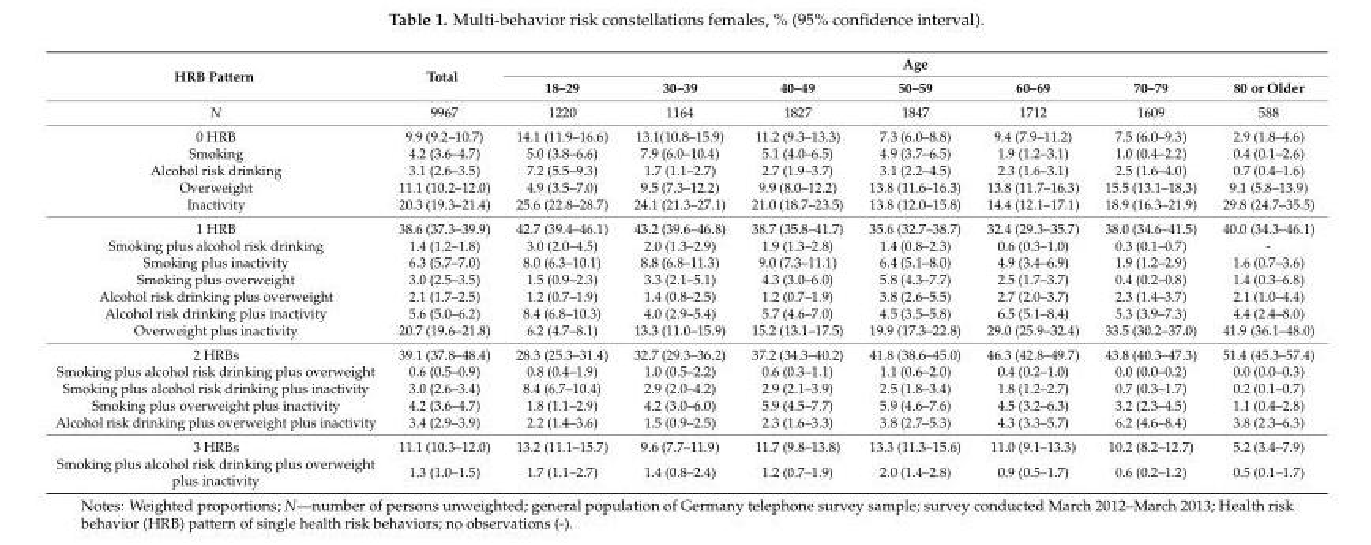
<table><thead><tr><td rowspan="2">HRB Pattern</td><td rowspan="2">Total</td><td colspan="7">Age</td></tr><tr><td>18–29</td><td>30–39</td><td>40–49</td><td>50–59</td><td>60–69</td><td>70–79</td><td>80 or Older</td></tr></thead><tbody><tr><td>N</td><td>9967</td><td>1220</td><td>1164</td><td>1827</td><td>1847</td><td>1712</td><td>1609</td><td>588</td></tr><tr><td>0 HRB</td><td>9.9 (9.2–10.7)</td><td>14.1 (11.9–16.6)</td><td>13.1(10.8–15.9)</td><td>11.2 (9.3–13.3)</td><td>7.3 (6.0–8.8)</td><td>9.4 (7.9–11.2)</td><td>7.5 (6.0–9.3)</td><td>2.9 (1.8–4.6)</td></tr><tr><td>Smoking</td><td>4.2 (3.6–4.7)</td><td>5.0 (3.8–6.6)</td><td>7.9 (6.0–10.4)</td><td>5.1 (4.0–6.5)</td><td>4.9 (3.7–6.5)</td><td>1.9 (1.2–3.1)</td><td>1.0 (0.4–2.2)</td><td>0.4 (0.1–2.6)</td></tr><tr><td>Alcohol risk drinking</td><td>3.1 (2.6–3.5)</td><td>7.2 (5.5–9.3)</td><td>1.7 (1.1–2.7)</td><td>2.7 (1.9–3.7)</td><td>3.1 (2.2–4.5)</td><td>2.3 (1.6–3.1)</td><td>2.5 (1.6–4.0)</td><td>0.7 (0.4–1.6)</td></tr><tr><td>Overweight</td><td>11.1 (10.2–12.0)</td><td>4.9 (3.5–7.0)</td><td>9.5 (7.3–12.2)</td><td>9.9 (8.0–12.2)</td><td>13.8 (11.6–16.3)</td><td>13.8 (11.7–16.3)</td><td>15.5 (13.1–18.3)</td><td>9.1 (5.8–13.9)</td></tr><tr><td>Inactivity</td><td>20.3 (19.3–21.4)</td><td>25.6 (22.8–28.7)</td><td>24.1 (21.3–27.1)</td><td>21.0 (18.7–23.5)</td><td>13.8 (12.0–15.8)</td><td>14.4 (12.1–17.1)</td><td>18.9 (16.3–21.9)</td><td>29.8 (24.7–35.5)</td></tr><tr><td>1 HRB</td><td>38.6 (37.3–39.9)</td><td>42.7 (39.4–46.1)</td><td>43.2 (39.6–46.8)</td><td>38.7 (35.8–41.7)</td><td>35.6 (32.7–38.7)</td><td>32.4 (29.3–35.7)</td><td>38.0 (34.6–41.5)</td><td>40.0 (34.3–46.1)</td></tr><tr><td>Smoking plus alcohol risk drinking</td><td>1.4 (1.2–1.8)</td><td>3.0 (2.0–4.5)</td><td>2.0 (1.3–2.9)</td><td>1.9 (1.3–2.8)</td><td>1.4 (0.8–2.3)</td><td>0.6 (0.3–1.0)</td><td>0.3 (0.1–0.7)</td><td>-</td></tr><tr><td>Smoking plus inactivity</td><td>6.3 (5.7–7.0)</td><td>8.0 (6.3–10.1)</td><td>8.8 (6.8–11.3)</td><td>9.0 (7.3–11.1)</td><td>6.4 (5.1–8.0)</td><td>4.9 (3.4–6.9)</td><td>1.9 (1.2–2.9)</td><td>1.6 (0.7–3.6)</td></tr><tr><td>Smoking plus overweight</td><td>3.0 (2.5–3.5)</td><td>1.5 (0.9–2.3)</td><td>3.3 (2.1–5.1)</td><td>4.3 (3.0–6.0)</td><td>5.8 (4.3–7.7)</td><td>2.5 (1.7–3.7)</td><td>0.4 (0.2–0.8)</td><td>1.4 (0.3–6.8)</td></tr><tr><td>Alcohol risk drinking plus overweight</td><td>2.1 (1.7–2.5)</td><td>1.2 (0.7–1.9)</td><td>1.4 (0.8–2.5)</td><td>1.2 (0.7–1.9)</td><td>3.8 (2.6–5.5)</td><td>2.7 (2.0–3.7)</td><td>2.3 (1.4–3.7)</td><td>2.1 (1.0–4.4)</td></tr><tr><td>Alcohol risk drinking plus inactivity</td><td>5.6 (5.0–6.2)</td><td>8.4 (6.8–10.3)</td><td>4.0 (2.9–5.4)</td><td>5.7 (4.6–7.0)</td><td>4.5 (3.5–5.8)</td><td>6.5 (5.1–8.4)</td><td>5.3 (3.9–7.3)</td><td>4.4 (2.4–8.0)</td></tr><tr><td>Overweight plus inactivity</td><td>20.7 (19.6–21.8)</td><td>6.2 (4.7–8.1)</td><td>13.3 (11.0–15.9)</td><td>15.2 (13.1–17.5)</td><td>19.9 (17.3–22.8)</td><td>29.0 (25.9–32.4)</td><td>33.5 (30.2–37.0)</td><td>41.9 (36.1–48.0)</td></tr><tr><td>2 HRBs</td><td>39.1 (37.8–48.4)</td><td>28.3 (25.3–31.4)</td><td>32.7 (29.3–36.2)</td><td>37.2 (34.3–40.2)</td><td>41.8 (38.6–45.0)</td><td>46.3 (42.8–49.7)</td><td>43.8 (40.3–47.3)</td><td>51.4 (45.3–57.4)</td></tr><tr><td>Smoking plus alcohol risk drinking plus overweight</td><td>0.6 (0.5–0.9)</td><td>0.8 (0.4–1.9)</td><td>1.0 (0.5–2.2)</td><td>0.6 (0.3–1.1)</td><td>1.1 (0.6–2.0)</td><td>0.4 (0.2–1.0)</td><td>0.0 (0.0–0.2)</td><td>0.0 (0.0–0.3)</td></tr><tr><td>Smoking plus alcohol risk drinking plus inactivity</td><td>3.0 (2.6–3.4)</td><td>8.4 (6.7–10.4)</td><td>2.9 (2.0–4.2)</td><td>2.9 (2.1–3.9)</td><td>2.5 (1.8–3.4)</td><td>1.8 (1.2–2.7)</td><td>0.7 (0.3–1.7)</td><td>0.2 (0.1–0.7)</td></tr><tr><td>Smoking plus overweight plus inactivity</td><td>4.2 (3.6–4.7)</td><td>1.8 (1.1–2.9)</td><td>4.2 (3.0–6.0)</td><td>5.9 (4.5–7.7)</td><td>5.9 (4.6–7.6)</td><td>4.5 (3.2–6.3)</td><td>3.2 (2.3–4.5)</td><td>1.1 (0.4–2.8)</td></tr><tr><td>Alcohol risk drinking plus overweight plus inactivity</td><td>3.4 (2.9–3.9)</td><td>2.2 (1.4–3.6)</td><td>1.5 (0.9–2.5)</td><td>2.3 (1.6–3.3)</td><td>3.8 (2.7–5.3)</td><td>4.3 (3.3–5.7)</td><td>6.2 (4.6–8.4)</td><td>3.8 (2.3–6.3)</td></tr><tr><td>3 HRBs</td><td>11.1 (10.3–12.0)</td><td>13.2 (11.1–15.7)</td><td>9.6 (7.7–11.9)</td><td>11.7 (9.8–13.8)</td><td>13.3 (11.3–15.6)</td><td>11.0 (9.1–13.3)</td><td>10.2 (8.2–12.7)</td><td>5.2 (3.4–7.9)</td></tr><tr><td>Smoking plus alcohol risk drinking plus overweight plus inactivity</td><td>1.3 (1.0–1.5)</td><td>1.7 (1.1–2.7)</td><td>1.4 (0.8–2.4)</td><td>1.2 (0.7–1.9)</td><td>2.0 (1.4–2.8)</td><td>0.9 (0.5–1.7)</td><td>0.6 (0.2–1.2)</td><td>0.5 (0.1–1.7)</td></tr></tbody></table>